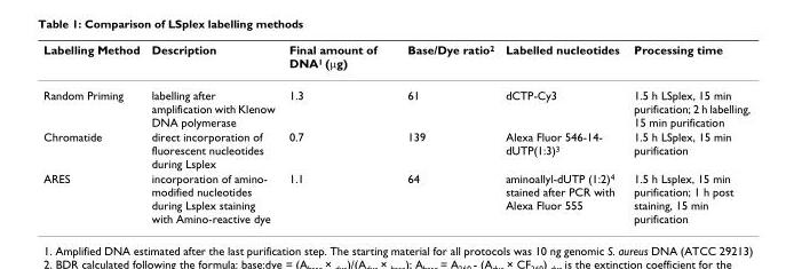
<table><thead><tr><td>Labelling Method</td><td>Description</td><td>Final amount of DNA<sup>1</sup> (μg)</td><td>Base/Dye ratio<sup>2</sup></td><td>Labelled nucleotides</td><td>Processing time</td></tr></thead><tbody><tr><td>Random Priming</td><td>labelling after amplification with Klenow DNA polymerase</td><td>1.3</td><td>61</td><td>dCTP-Cy3</td><td>1.5 h LSplex, 15 min purification; 2 h labelling, 15 min purification</td></tr><tr><td>Chromatide</td><td>direct incorporation of fluorescent nucleotides during Lsplex</td><td>0.7</td><td>139</td><td>Alexa Fluor 546-14- dUTP(1:3)<sup>3</sup></td><td>1.5 h LSplex, 15 min purification</td></tr><tr><td>ARES</td><td>incorporation of amino- modified nucleotides during Lsplex staining with Amino-reactive dye</td><td>1.1</td><td>64</td><td>aminoallyl-dUTP (1:2)<sup>4</sup> stained after PCR with Alexa Fluor 555</td><td>1.5 h Lsplex, 15 min purification; 1 h post staining, 15 min purification</td></tr></tbody></table>